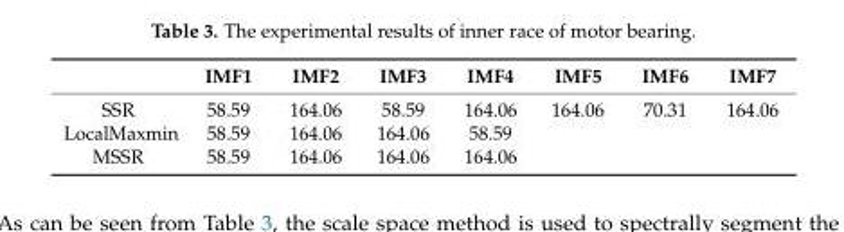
<table><thead><tr><td></td><td>IMF1</td><td>IMF2</td><td>IMF3</td><td>IMF4</td><td>IMF5</td><td>IMF6</td><td>IMF7</td></tr></thead><tbody><tr><td>SSR</td><td>58.59</td><td>164.06</td><td>58.59</td><td>164.06</td><td>164.06</td><td>70.31</td><td>164.06</td></tr><tr><td>LocalMaxmin</td><td>58.59</td><td>164.06</td><td>164.06</td><td>58.59</td><td></td><td></td><td></td></tr><tr><td>MSSR</td><td>58.59</td><td>164.06</td><td>164.06</td><td>164.06</td><td></td><td></td><td></td></tr></tbody></table>